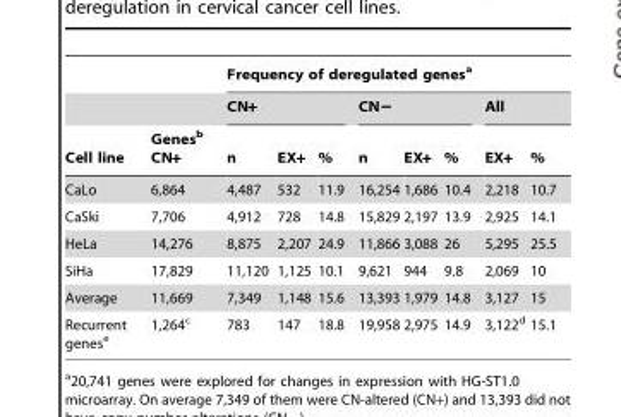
<table><thead><tr><td rowspan="3">Cell line</td><td rowspan="3">Genes<sup>b</sup> CN+</td><td colspan="8">Frequency of deregulated genes<sup>a</sup></td></tr><tr><td colspan="3">CN+</td><td colspan="3">CN−</td><td colspan="2">All</td></tr><tr><td>n</td><td>EX+</td><td>%</td><td>n</td><td>EX+</td><td>%</td><td>EX+</td><td>%</td></tr></thead><tbody><tr><td>CaLo</td><td>6,864</td><td>4,487</td><td>532</td><td>11.9</td><td>16,254</td><td>1,686</td><td>10.4</td><td>2,218</td><td>10.7</td></tr><tr><td>CaSki</td><td>7,706</td><td>4,912</td><td>728</td><td>14.8</td><td>15,829</td><td>2,197</td><td>13.9</td><td>2,925</td><td>14.1</td></tr><tr><td>HeLa</td><td>14,276</td><td>8,875</td><td>2,207</td><td>24.9</td><td>11,866</td><td>3,088</td><td>26</td><td>5,295</td><td>25.5</td></tr><tr><td>SiHa</td><td>17,829</td><td>11,120</td><td>1,125</td><td>10.1</td><td>9,621</td><td>944</td><td>9.8</td><td>2,069</td><td>10</td></tr><tr><td>Average</td><td>11,669</td><td>7,349</td><td>1,148</td><td>15.6</td><td>13,393</td><td>1,979</td><td>14.8</td><td>3,127</td><td>15</td></tr><tr><td>Recurrent genes<sup>e</sup></td><td>1,264<sup>c</sup></td><td>783</td><td>147</td><td>18.8</td><td>19,958</td><td>2,975</td><td>14.9</td><td>3,122<sup>d</sup></td><td>15.1</td></tr></tbody></table>